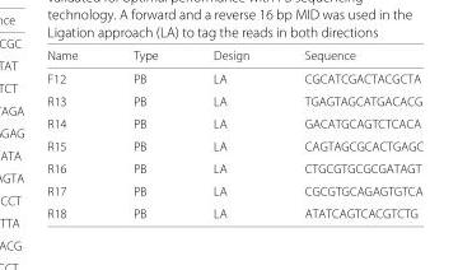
<table><thead><tr><td>Name</td><td>Type</td><td>Design</td><td>Sequence</td></tr></thead><tbody><tr><td>F12</td><td>PB</td><td>LA</td><td>CGCATCGACTACGCTA</td></tr><tr><td>R13</td><td>PB</td><td>LA</td><td>TGAGTAGCATGACACG</td></tr><tr><td>R14</td><td>PB</td><td>LA</td><td>GACATGCAGTCTCACA</td></tr><tr><td>R15</td><td>PB</td><td>LA</td><td>CAGTAGCGCACTGAGC</td></tr><tr><td>R16</td><td>PB</td><td>LA</td><td>CTGCGTGCGCGATAGT</td></tr><tr><td>R17</td><td>PB</td><td>LA</td><td>CGCGTGCAGAGTGTCA</td></tr><tr><td>R18</td><td>PB</td><td>LA</td><td>ATATCAGTCACGTCTG</td></tr></tbody></table>